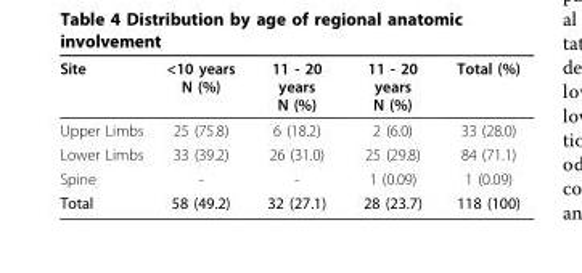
<table><thead><tr><td>Site</td><td>&lt;10 years N (%)</td><td>11 - 20 years N (%)</td><td>11 - 20 years N (%)</td><td>Total (%)</td></tr></thead><tbody><tr><td>Upper Limbs</td><td>25 (75.8)</td><td>6 (18.2)</td><td>2 (6.0)</td><td>33 (28.0)</td></tr><tr><td>Lower Limbs</td><td>33 (39.2)</td><td>26 (31.0)</td><td>25 (29.8)</td><td>84 (71.1)</td></tr><tr><td>Spine</td><td>-</td><td>-</td><td>1 (0.09)</td><td>1 (0.09)</td></tr><tr><td>Total</td><td>58 (49.2)</td><td>32 (27.1)</td><td>28 (23.7)</td><td>118 (100)</td></tr></tbody></table>